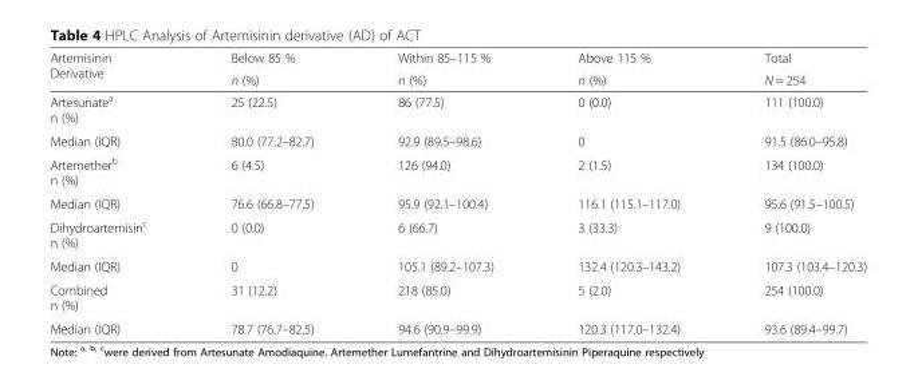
<table><thead><tr><td rowspan="2">Artemisinin Derivative</td><td rowspan="2">Below 85 % n (%)</td><td rowspan="2">Within 85–115 % n (%)</td><td rowspan="2">Above 115 % n (%)</td><td rowspan="2">Total N = 254</td></tr><tr></tr></thead><tbody><tr><td>Artesunate<sup>a</sup> n (%)</td><td>25 (22.5)</td><td>86 (77.5)</td><td>0 (0.0)</td><td>111 (100.0)</td></tr><tr><td>Median (IQR)</td><td>80.0 (77.2–82.7)</td><td>92.9 (89.5–98.6)</td><td>0</td><td>91.5 (86.0–95.8)</td></tr><tr><td>Artemether<sup>b</sup> n (%)</td><td>6 (4.5)</td><td>126 (94.0)</td><td>2 (1.5)</td><td>134 (100.0)</td></tr><tr><td>Median (IQR)</td><td>76.6 (66.8–77.5)</td><td>95.9 (92.1–100.4)</td><td>116.1 (115.1–117.0)</td><td>95.6 (91.5–100.5)</td></tr><tr><td>Dihydroartemisin<sup>c</sup> n (%)</td><td>0 (0.0)</td><td>6 (66.7)</td><td>3 (33.3)</td><td>9 (100.0)</td></tr><tr><td>Median (IQR)</td><td>0</td><td>105.1 (89.2–107.3)</td><td>132.4 (120.3–143.2)</td><td>107.3 (103.4–120.3)</td></tr><tr><td>Combined n (%)</td><td>31 (12.2)</td><td>218 (85.0)</td><td>5 (2.0)</td><td>254 (100.0)</td></tr><tr><td>Median (IQR)</td><td>78.7 (76.7–82.5)</td><td>94.6 (90.9–99.9)</td><td>120.3 (117.0–132.4)</td><td>93.6 (89.4–99.7)</td></tr></tbody></table>